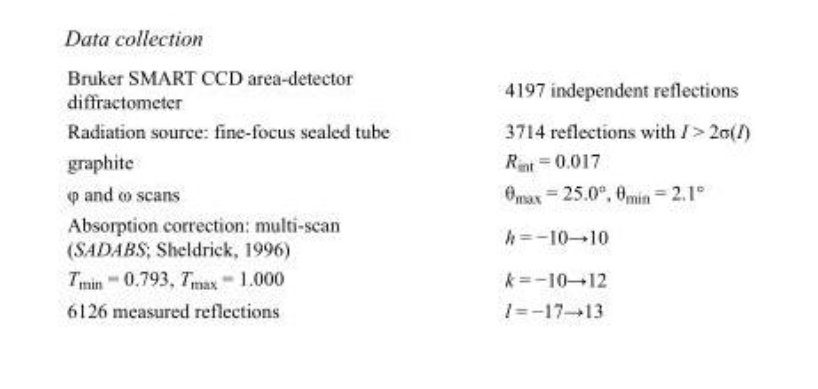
<table><tbody><tr><td>Bruker SMART CCD area-detector diffractometer</td><td>4197 independent reflections</td></tr><tr><td>Radiation source: fine-focus sealed tube</td><td>3714 reflections with I &gt; 2σ(I)</td></tr><tr><td>graphite</td><td>R<sub>int</sub> = 0.017</td></tr><tr><td>φ and ω scans</td><td>θ<sub>max</sub> = 25.0°, θ<sub>min</sub> = 2.1°</td></tr><tr><td>Absorption correction: multi-scan (SADABS; Sheldrick, 1996)</td><td>h = −10→10</td></tr><tr><td>T<sub>min</sub> = 0.793, T<sub>max</sub> = 1.000</td><td>k = −10→12</td></tr><tr><td>6126 measured reflections</td><td>l = −17→13</td></tr></tbody></table>